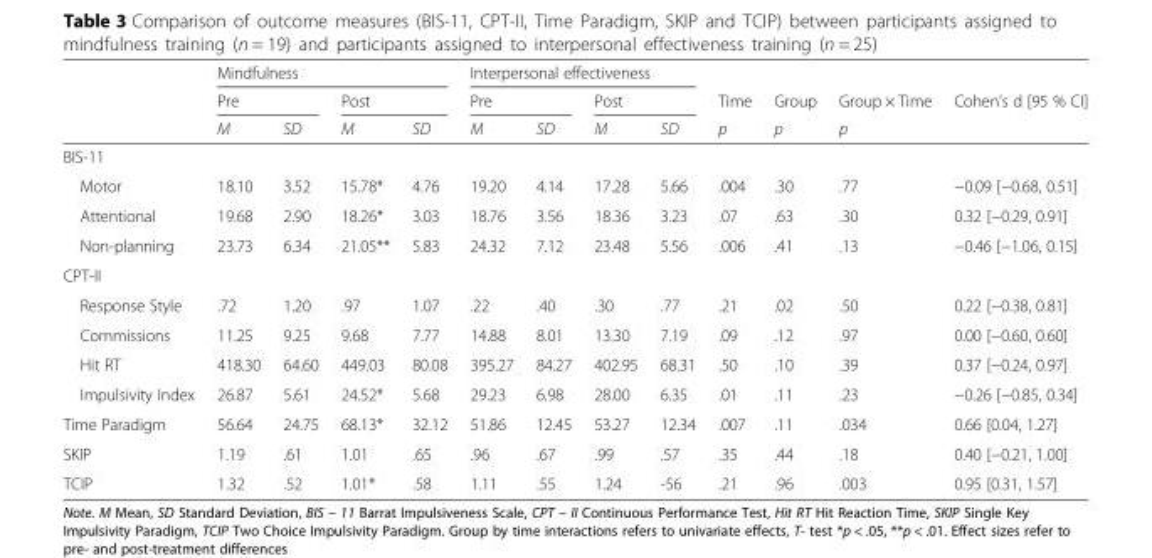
<table><thead><tr><td rowspan="3"></td><td colspan="4">Mindfulness</td><td colspan="4">Interpersonal effectiveness</td><td rowspan="3">Time p</td><td rowspan="3">Group p</td><td rowspan="3">Group × Time p</td><td rowspan="3">Cohen’s d [95 % CI]</td></tr><tr><td colspan="2">Pre</td><td colspan="2">Post</td><td colspan="2">Pre</td><td colspan="2">Post</td></tr><tr><td>M</td><td>SD</td><td>M</td><td>SD</td><td>M</td><td>SD</td><td>M</td><td>SD</td></tr></thead><tbody><tr><td colspan="13">BIS-11</td></tr><tr><td>Motor</td><td>18.10</td><td>3.52</td><td>15.78*</td><td>4.76</td><td>19.20</td><td>4.14</td><td>17.28</td><td>5.66</td><td>.004</td><td>.30</td><td>.77</td><td>−0.09 [−0.68, 0.51]</td></tr><tr><td>Attentional</td><td>19.68</td><td>2.90</td><td>18.26*</td><td>3.03</td><td>18.76</td><td>3.56</td><td>18.36</td><td>3.23</td><td>.07</td><td>.63</td><td>.30</td><td>0.32 [−0.29, 0.91]</td></tr><tr><td>Non-planning</td><td>23.73</td><td>6.34</td><td>21.05**</td><td>5.83</td><td>24.32</td><td>7.12</td><td>23.48</td><td>5.56</td><td>.006</td><td>.41</td><td>.13</td><td>−0.46 [−1.06, 0.15]</td></tr><tr><td colspan="13">CPT-II</td></tr><tr><td>Response Style</td><td>.72</td><td>1.20</td><td>.97</td><td>1.07</td><td>.22</td><td>.40</td><td>.30</td><td>.77</td><td>.21</td><td>.02</td><td>.50</td><td>0.22 [−0.38, 0.81]</td></tr><tr><td>Commissions</td><td>11.25</td><td>9.25</td><td>9.68</td><td>7.77</td><td>14.88</td><td>8.01</td><td>13.30</td><td>7.19</td><td>.09</td><td>.12</td><td>.97</td><td>0.00 [−0.60, 0.60]</td></tr><tr><td>Hit RT</td><td>418.30</td><td>64.60</td><td>449.03</td><td>80.08</td><td>395.27</td><td>84.27</td><td>402.95</td><td>68.31</td><td>.50</td><td>.10</td><td>.39</td><td>0.37 [−0.24, 0.97]</td></tr><tr><td>Impulsivity Index</td><td>26.87</td><td>5.61</td><td>24.52*</td><td>5.68</td><td>29.23</td><td>6.98</td><td>28.00</td><td>6.35</td><td>.01</td><td>.11</td><td>.23</td><td>−0.26 [−0.85, 0.34]</td></tr><tr><td>Time Paradigm</td><td>56.64</td><td>24.75</td><td>68.13*</td><td>32.12</td><td>51.86</td><td>12.45</td><td>53.27</td><td>12.34</td><td>.007</td><td>.11</td><td>.034</td><td>0.66 [0.04, 1.27]</td></tr><tr><td>SKIP</td><td>1.19</td><td>.61</td><td>1.01</td><td>.65</td><td>.96</td><td>.67</td><td>.99</td><td>.57</td><td>.35</td><td>.44</td><td>.18</td><td>0.40 [−0.21, 1.00]</td></tr><tr><td>TCIP</td><td>1.32</td><td>.52</td><td>1.01*</td><td>.58</td><td>1.11</td><td>.55</td><td>1.24</td><td>-56</td><td>.21</td><td>.96</td><td>.003</td><td>0.95 [0.31, 1.57]</td></tr></tbody></table>